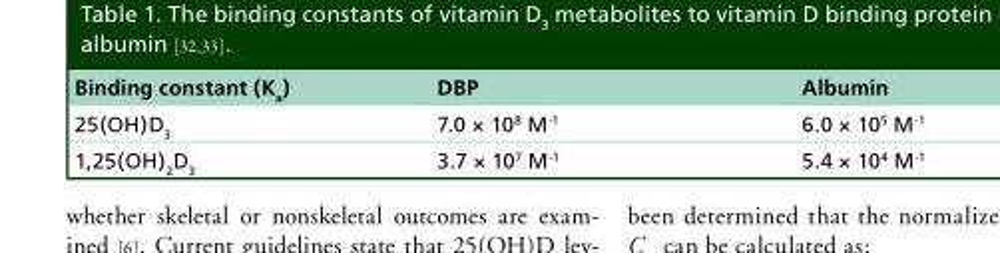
<table><thead><tr><td>Binding constant (K<sub>a</sub>)</td><td>DBP</td><td>Albumin</td></tr></thead><tbody><tr><td>25(OH)D<sub>3</sub></td><td>7.0 × 10<sup>8</sup> M<sup>-1</sup></td><td>6.0 × 10<sup>5</sup> M<sup>-1</sup></td></tr><tr><td>1,25(OH)<sub>2</sub>D<sub>3</sub></td><td>3.7 × 10<sup>7</sup> M<sup>-1</sup></td><td>5.4 × 10<sup>4</sup> M<sup>-1</sup></td></tr></tbody></table>